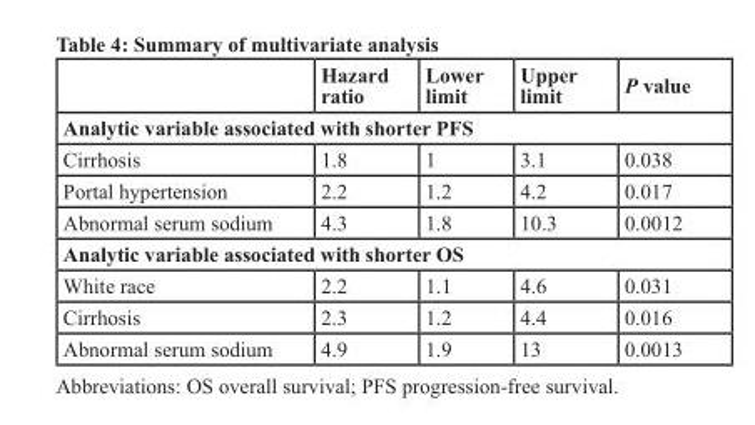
<table><thead><tr><td></td><td>Hazard ratio</td><td>Lower limit</td><td>Upper limit</td><td>P value</td></tr></thead><tbody><tr><td colspan="5">Analytic variable associated with shorter PFS</td></tr><tr><td>Cirrhosis</td><td>1.8</td><td>1</td><td>3.1</td><td>0.038</td></tr><tr><td>Portal hypertension</td><td>2.2</td><td>1.2</td><td>4.2</td><td>0.017</td></tr><tr><td>Abnormal serum sodium</td><td>4.3</td><td>1.8</td><td>10.3</td><td>0.0012</td></tr><tr><td colspan="5">Analytic variable associated with shorter OS</td></tr><tr><td>White race</td><td>2.2</td><td>1.1</td><td>4.6</td><td>0.031</td></tr><tr><td>Cirrhosis</td><td>2.3</td><td>1.2</td><td>4.4</td><td>0.016</td></tr><tr><td>Abnormal serum sodium</td><td>4.9</td><td>1.9</td><td>13</td><td>0.0013</td></tr></tbody></table>